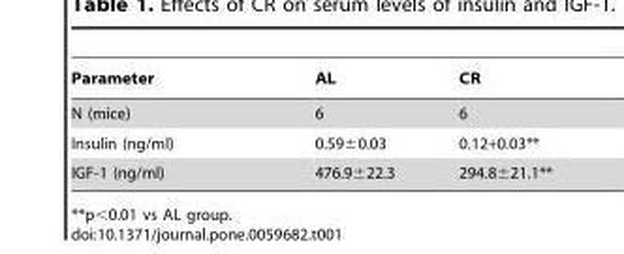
<table><thead><tr><td>Parameter</td><td>AL</td><td>CR</td></tr></thead><tbody><tr><td>N (mice)</td><td>6</td><td>6</td></tr><tr><td>Insulin (ng/ml)</td><td>0.59±0.03</td><td>0.12+0.03**</td></tr><tr><td>IGF-1 (ng/ml)</td><td>476.9±22.3</td><td>294.8±21.1**</td></tr></tbody></table>